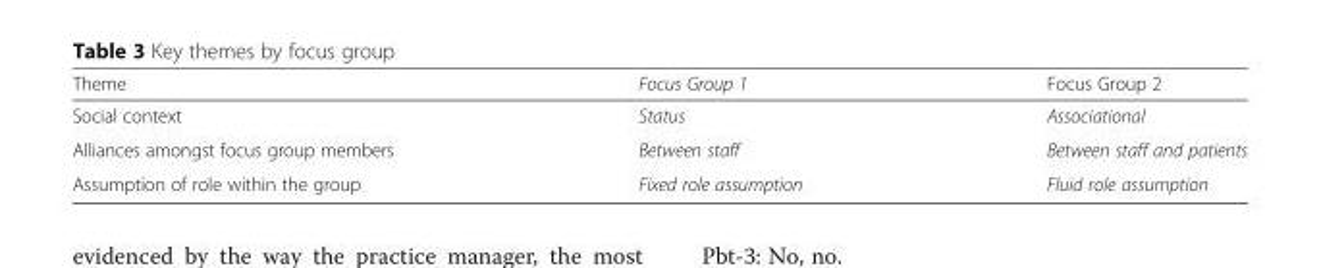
<table><thead><tr><td>Theme</td><td>Focus Group 1</td><td>Focus Group 2</td></tr></thead><tbody><tr><td>Social context</td><td>Status</td><td>Associational</td></tr><tr><td>Alliances amongst focus group members</td><td>Between staff</td><td>Between staff and patients</td></tr><tr><td>Assumption of role within the group</td><td>Fixed role assumption</td><td>Fluid role assumption</td></tr></tbody></table>